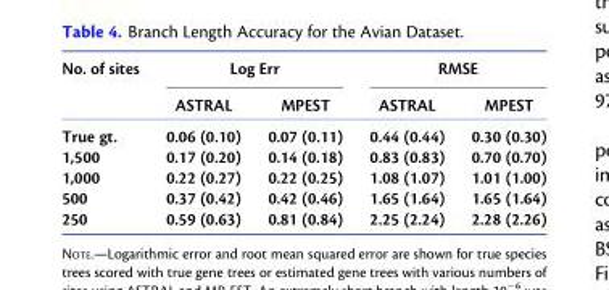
<table><thead><tr><td rowspan="2">No. of sites</td><td colspan="2">Log Err</td><td colspan="2">RMSE</td></tr><tr><td>ASTRAL</td><td>MPEST</td><td>ASTRAL</td><td>MPEST</td></tr></thead><tbody><tr><td>True gt.</td><td>0.06 (0.10)</td><td>0.07 (0.11)</td><td>0.44 (0.44)</td><td>0.30 (0.30)</td></tr><tr><td>1,500</td><td>0.17 (0.20)</td><td>0.14 (0.18)</td><td>0.83 (0.83)</td><td>0.70 (0.70)</td></tr><tr><td>1,000</td><td>0.22 (0.27)</td><td>0.22 (0.25)</td><td>1.08 (1.07)</td><td>1.01 (1.00)</td></tr><tr><td>500</td><td>0.37 (0.42)</td><td>0.42 (0.46)</td><td>1.65 (1.64)</td><td>1.65 (1.64)</td></tr><tr><td>250</td><td>0.59 (0.63)</td><td>0.81 (0.84)</td><td>2.25 (2.24)</td><td>2.28 (2.26)</td></tr></tbody></table>